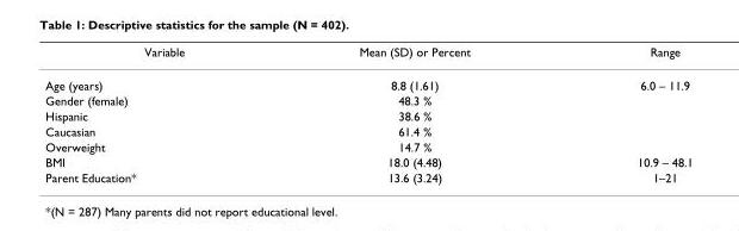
<table><thead><tr><td>Variable</td><td>Mean (SD) or Percent</td><td>Range</td></tr></thead><tbody><tr><td>Age (years)</td><td>8.8 (1.61)</td><td>6.0 – 11.9</td></tr><tr><td>Gender (female)</td><td>48.3 %</td><td></td></tr><tr><td>Hispanic</td><td>38.6 %</td><td></td></tr><tr><td>Caucasian</td><td>61.4 %</td><td></td></tr><tr><td>Overweight</td><td>14.7 %</td><td></td></tr><tr><td>BMI</td><td>18.0 (4.48)</td><td>10.9 – 48.1</td></tr><tr><td>Parent Education*</td><td>13.6 (3.24)</td><td>1–21</td></tr></tbody></table>